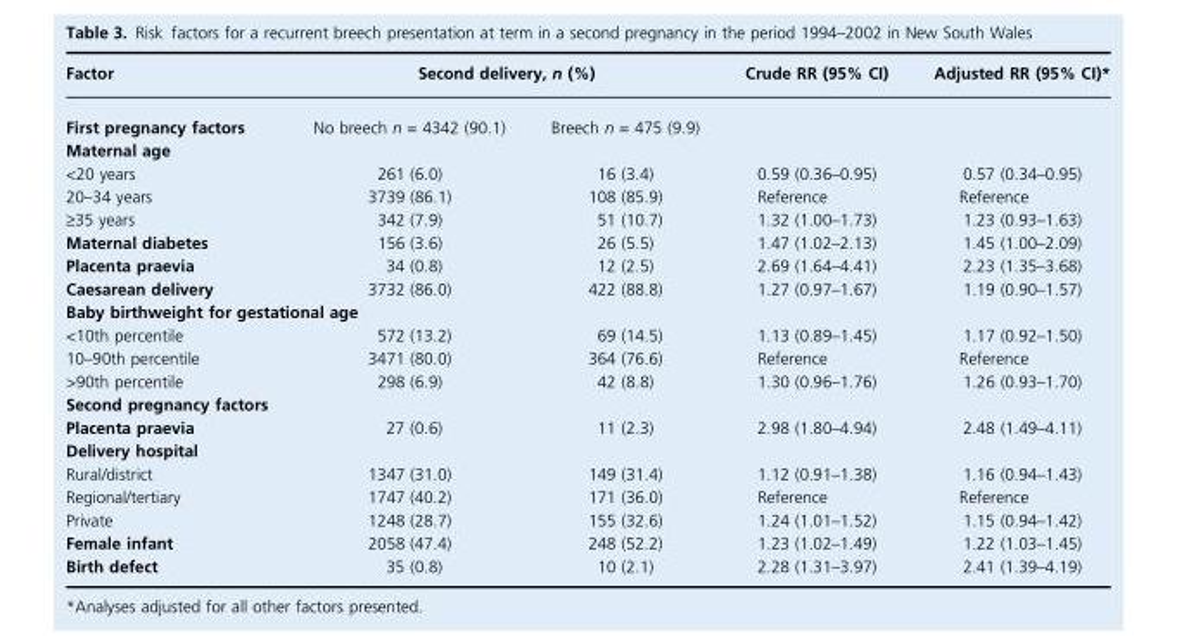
<table><thead><tr><td rowspan="2">Factor First pregnancy factors</td><td colspan="2">Second delivery, n (%)</td><td rowspan="2">Crude RR (95% CI)</td><td rowspan="2">Adjusted RR (95% CI)*</td></tr><tr><td>No breech n = 4342 (90.1)</td><td>Breech n = 475 (9.9)</td></tr></thead><tbody><tr><td colspan="5">Maternal age</td></tr><tr><td>&lt;20 years</td><td>261 (6.0)</td><td>16 (3.4)</td><td>0.59 (0.36–0.95)</td><td>0.57 (0.34–0.95)</td></tr><tr><td>20–34 years</td><td>3739 (86.1)</td><td>108 (85.9)</td><td>Reference</td><td>Reference</td></tr><tr><td>‡35 years</td><td>342 (7.9)</td><td>51 (10.7)</td><td>1.32 (1.00–1.73)</td><td>1.23 (0.93–1.63)</td></tr><tr><td>Maternal diabetes</td><td>156 (3.6)</td><td>26 (5.5)</td><td>1.47 (1.02–2.13)</td><td>1.45 (1.00–2.09)</td></tr><tr><td>Placenta praevia</td><td>34 (0.8)</td><td>12 (2.5)</td><td>2.69 (1.64–4.41)</td><td>2.23 (1.35–3.68)</td></tr><tr><td>Caesarean delivery</td><td>3732 (86.0)</td><td>422 (88.8)</td><td>1.27 (0.97–1.67)</td><td>1.19 (0.90–1.57)</td></tr><tr><td colspan="5">Baby birthweight for gestational age</td></tr><tr><td>&lt;10th percentile</td><td>572 (13.2)</td><td>69 (14.5)</td><td>1.13 (0.89–1.45)</td><td>1.17 (0.92–1.50)</td></tr><tr><td>10–90th percentile</td><td>3471 (80.0)</td><td>364 (76.6)</td><td>Reference</td><td>Reference</td></tr><tr><td>&gt;90th percentile</td><td>298 (6.9)</td><td>42 (8.8)</td><td>1.30 (0.96–1.76)</td><td>1.26 (0.93–1.70)</td></tr><tr><td colspan="5">Second pregnancy factors</td></tr><tr><td>Placenta praevia</td><td>27 (0.6)</td><td>11 (2.3)</td><td>2.98 (1.80–4.94)</td><td>2.48 (1.49–4.11)</td></tr><tr><td colspan="5">Delivery hospital</td></tr><tr><td>Rural/district</td><td>1347 (31.0)</td><td>149 (31.4)</td><td>1.12 (0.91–1.38)</td><td>1.16 (0.94–1.43)</td></tr><tr><td>Regional/tertiary</td><td>1747 (40.2)</td><td>171 (36.0)</td><td>Reference</td><td>Reference</td></tr><tr><td>Private</td><td>1248 (28.7)</td><td>155 (32.6)</td><td>1.24 (1.01–1.52)</td><td>1.15 (0.94–1.42)</td></tr><tr><td>Female infant</td><td>2058 (47.4)</td><td>248 (52.2)</td><td>1.23 (1.02–1.49)</td><td>1.22 (1.03–1.45)</td></tr><tr><td>Birth defect</td><td>35 (0.8)</td><td>10 (2.1)</td><td>2.28 (1.31–3.97)</td><td>2.41 (1.39–4.19)</td></tr></tbody></table>